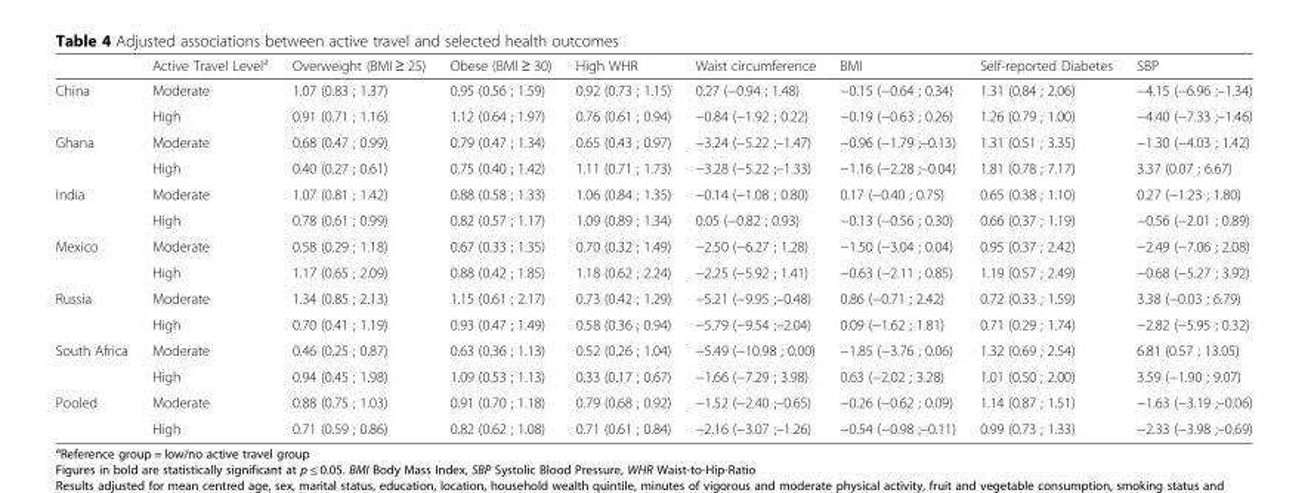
<table><thead><tr><td></td><td>Active Travel Level<sup>a</sup></td><td>Overweight (BMI ≥ 25)</td><td>Obese (BMI ≥ 30)</td><td>High WHR</td><td>Waist circumference</td><td>BMI</td><td>Self-reported Diabetes</td><td>SBP</td></tr></thead><tbody><tr><td rowspan="2">China</td><td>Moderate</td><td>1.07 (0.83 ; 1.37)</td><td>0.95 (0.56 ; 1.59)</td><td>0.92 (0.73 ; 1.15)</td><td>0.27 (−0.94 ; 1.48)</td><td>−0.15 (−0.64 ; 0.34)</td><td>1.31 (0.84 ; 2.06)</td><td>−4.15 (−6.96 ;–1.34)</td></tr><tr><td>High</td><td>0.91 (0.71 ; 1.16)</td><td>1.12 (0.64 ; 1.97)</td><td>0.76 (0.61 ; 0.94)</td><td>−0.84 (−1.92 ; 0.22)</td><td>−0.19 (−0.63 ; 0.26)</td><td>1.26 (0.79 ; 1.00)</td><td>−4.40 (−7.33 ;–1.46)</td></tr><tr><td rowspan="2">Ghana</td><td>Moderate</td><td>0.68 (0.47 ; 0.99)</td><td>0.79 (0.47 ; 1.34)</td><td>0.65 (0.43 ; 0.97)</td><td>−3.24 (−5.22 ;–1.47)</td><td>−0.96 (−1.79 ;–0.13)</td><td>1.31 (0.51 ; 3.35)</td><td>−1.30 (−4.03 ; 1.42)</td></tr><tr><td>High</td><td>0.40 (0.27 ; 0.61)</td><td>0.75 (0.40 ; 1.42)</td><td>1.11 (0.71 ; 1.73)</td><td>−3.28 (−5.22 ;–1.33)</td><td>−1.16 (−2.28 ;–0.04)</td><td>1.81 (0.78 ; 7.17)</td><td>3.37 (0.07 ; 6.67)</td></tr><tr><td rowspan="2">India</td><td>Moderate</td><td>1.07 (0.81 ; 1.42)</td><td>0.88 (0.58 ; 1.33)</td><td>1.06 (0.84 ; 1.35)</td><td>−0.14 (−1.08 ; 0.80)</td><td>0.17 (−0.40 ; 0.75)</td><td>0.65 (0.38 ; 1.10)</td><td>0.27 (−1.23 ; 1.80)</td></tr><tr><td>High</td><td>0.78 (0.61 ; 0.99)</td><td>0.82 (0.57 ; 1.17)</td><td>1.09 (0.89 ; 1.34)</td><td>0.05 (−0.82 ; 0.93)</td><td>−0.13 (−0.56 ; 0.30)</td><td>0.66 (0.37 ; 1.19)</td><td>−0.56 (−2.01 ; 0.89)</td></tr><tr><td rowspan="2">Mexico</td><td>Moderate</td><td>0.58 (0.29 ; 1.18)</td><td>0.67 (0.33 ; 1.35)</td><td>0.70 (0.32 ; 1.49)</td><td>−2.50 (−6.27 ; 1.28)</td><td>−1.50 (−3.04 ; 0.04)</td><td>0.95 (0.37 ; 2.42)</td><td>−2.49 (−7.06 ; 2.08)</td></tr><tr><td>High</td><td>1.17 (0.65 ; 2.09)</td><td>0.88 (0.42 ; 1.85)</td><td>1.18 (0.62 ; 2.24)</td><td>−2.25 (−5.92 ; 1.41)</td><td>−0.63 (−2.11 ; 0.85)</td><td>1.19 (0.57 ; 2.49)</td><td>−0.68 (−5.27 ; 3.92)</td></tr><tr><td rowspan="2">Russia</td><td>Moderate</td><td>1.34 (0.85 ; 2.13)</td><td>1.15 (0.61 ; 2.17)</td><td>0.73 (0.42 ; 1.29)</td><td>−5.21 (−9.95 ;–0.48)</td><td>0.86 (−0.71 ; 2.42)</td><td>0.72 (0.33 ; 1.59)</td><td>3.38 (−0.03 ; 6.79)</td></tr><tr><td>High</td><td>0.70 (0.41 ; 1.19)</td><td>0.93 (0.47 ; 1.49)</td><td>0.58 (0.36 ; 0.94)</td><td>−5.79 (−9.54 ;–2.04)</td><td>0.09 (−1.62 ; 1.81)</td><td>0.71 (0.29 ; 1.74)</td><td>−2.82 (−5.95 ; 0.32)</td></tr><tr><td rowspan="2">South Africa</td><td>Moderate</td><td>0.46 (0.25 ; 0.87)</td><td>0.63 (0.36 ; 1.13)</td><td>0.52 (0.26 ; 1.04)</td><td>−5.49 (−10.98 ; 0.00)</td><td>−1.85 (−3.76 ; 0.06)</td><td>1.32 (0.69 ; 2.54)</td><td>6.81 (0.57 ; 13.05)</td></tr><tr><td>High</td><td>0.94 (0.45 ; 1.98)</td><td>1.09 (0.53 ; 1.13)</td><td>0.33 (0.17 ; 0.67)</td><td>−1.66 (−7.29 ; 3.98)</td><td>0.63 (−2.02 ; 3.28)</td><td>1.01 (0.50 ; 2.00)</td><td>3.59 (−1.90 ; 9.07)</td></tr><tr><td rowspan="2">Pooled</td><td>Moderate</td><td>0.88 (0.75 ; 1.03)</td><td>0.91 (0.70 ; 1.18)</td><td>0.79 (0.68 ; 0.92)</td><td>−1.52 (−2.40 ;–0.65)</td><td>−0.26 (−0.62 ; 0.09)</td><td>1.14 (0.87 ; 1.51)</td><td>−1.63 (−3.19 ;–0.06)</td></tr><tr><td>High</td><td>0.71 (0.59 ; 0.86)</td><td>0.82 (0.62 ; 1.08)</td><td>0.71 (0.61 ; 0.84)</td><td>−2.16 (−3.07 ;–1.26)</td><td>−0.54 (−0.98 ;–0.11)</td><td>0.99 (0.73 ; 1.33)</td><td>−2.33 (−3.98 ;–0.69)</td></tr></tbody></table>